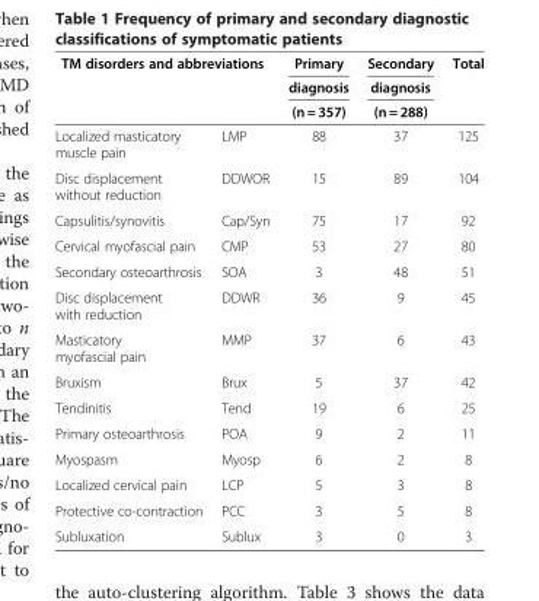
<table><thead><tr><td rowspan="3" colspan="2">TM disorders and abbreviations</td><td rowspan="4">Primary diagnosis (n = 357) 88</td><td rowspan="4">Secondary diagnosis (n = 288) 37</td><td rowspan="4">Total 125</td></tr><tr></tr><tr></tr><tr><td>Localized masticatory muscle pain</td><td>LMP</td></tr></thead><tbody><tr><td>Disc displacement without reduction</td><td>DDWOR</td><td>15</td><td>89</td><td>104</td></tr><tr><td>Capsulitis/synovitis</td><td>Cap/Syn</td><td>75</td><td>17</td><td>92</td></tr><tr><td>Cervical myofascial pain</td><td>CMP</td><td>53</td><td>27</td><td>80</td></tr><tr><td>Secondary osteoarthrosis</td><td>SOA</td><td>3</td><td>48</td><td>51</td></tr><tr><td>Disc displacement with reduction</td><td>DDWR</td><td>36</td><td>9</td><td>45</td></tr><tr><td>Masticatory myofascial pain</td><td>MMP</td><td>37</td><td>6</td><td>43</td></tr><tr><td>Bruxism</td><td>Brux</td><td>5</td><td>37</td><td>42</td></tr><tr><td>Tendinitis</td><td>Tend</td><td>19</td><td>6</td><td>25</td></tr><tr><td>Primary osteoarthrosis</td><td>POA</td><td>9</td><td>2</td><td>11</td></tr><tr><td>Myospasm</td><td>Myosp</td><td>6</td><td>2</td><td>8</td></tr><tr><td>Localized cervical pain</td><td>LCP</td><td>5</td><td>3</td><td>8</td></tr><tr><td>Protective co-contraction</td><td>PCC</td><td>3</td><td>5</td><td>8</td></tr><tr><td>Subluxation</td><td>Sublux</td><td>3</td><td>0</td><td>3</td></tr></tbody></table>